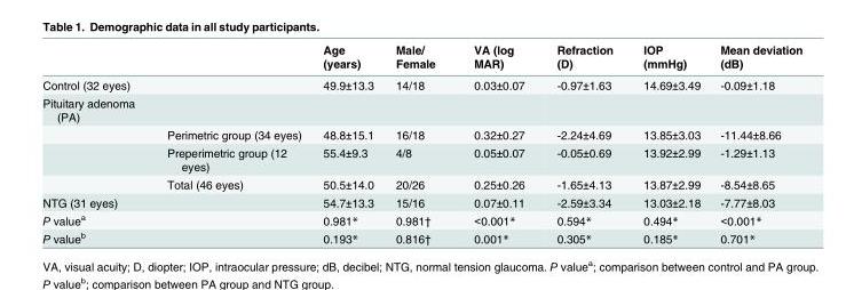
<table><thead><tr><td></td><td></td><td>Age (years)</td><td>Male/ Female</td><td>VA (log MAR)</td><td>Refraction (D)</td><td>IOP (mmHg)</td><td>Mean deviation (dB)</td></tr></thead><tbody><tr><td>Control (32 eyes)</td><td></td><td>49.9±13.3</td><td>14/18</td><td>0.03±0.07</td><td>-0.97±1.63</td><td>14.69±3.49</td><td>-0.09±1.18</td></tr><tr><td colspan="8">Pituitary adenoma (PA)</td></tr><tr><td></td><td>Perimetric group (34 eyes)</td><td>48.8±15.1</td><td>16/18</td><td>0.32±0.27</td><td>-2.24±4.69</td><td>13.85±3.03</td><td>-11.44±8.66</td></tr><tr><td></td><td>Preperimetric group (12 eyes)</td><td>55.4±9.3</td><td>4/8</td><td>0.05±0.07</td><td>-0.05±0.69</td><td>13.92±2.99</td><td>-1.29±1.13</td></tr><tr><td></td><td>Total (46 eyes)</td><td>50.5±14.0</td><td>20/26</td><td>0.25±0.26</td><td>-1.65±4.13</td><td>13.87±2.99</td><td>-8.54±8.65</td></tr><tr><td>NTG (31 eyes)</td><td></td><td>54.7±13.3</td><td>15/16</td><td>0.07±0.11</td><td>-2.59±3.34</td><td>13.03±2.18</td><td>-7.77±8.03</td></tr><tr><td>P value<sup>a</sup></td><td></td><td>0.981*</td><td>0.981†</td><td>&lt;0.001*</td><td>0.594*</td><td>0.494*</td><td>&lt;0.001*</td></tr><tr><td>P value<sup>b</sup></td><td></td><td>0.193*</td><td>0.816†</td><td>0.001*</td><td>0.305*</td><td>0.185*</td><td>0.701*</td></tr></tbody></table>